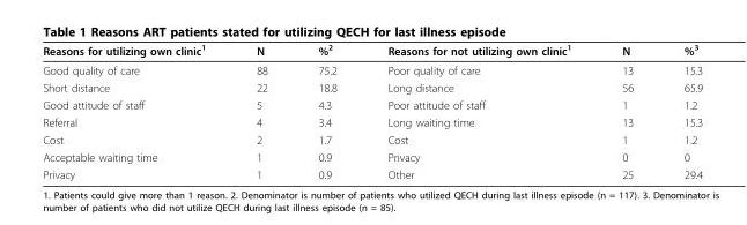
<table><thead><tr><td>Reasons for utilizing own clinic<sup>1</sup></td><td>N</td><td>%<sup>2</sup></td><td>Reasons for not utilizing own clinic<sup>1</sup></td><td>N</td><td>%<sup>3</sup></td></tr></thead><tbody><tr><td>Good quality of care</td><td>88</td><td>75.2</td><td>Poor quality of care</td><td>13</td><td>15.3</td></tr><tr><td>Short distance</td><td>22</td><td>18.8</td><td>Long distance</td><td>56</td><td>65.9</td></tr><tr><td>Good attitude of staff</td><td>5</td><td>4.3</td><td>Poor attitude of staff</td><td>1</td><td>1.2</td></tr><tr><td>Referral</td><td>4</td><td>3.4</td><td>Long waiting time</td><td>13</td><td>15.3</td></tr><tr><td>Cost</td><td>2</td><td>1.7</td><td>Cost</td><td>1</td><td>1.2</td></tr><tr><td>Acceptable waiting time</td><td>1</td><td>0.9</td><td>Privacy</td><td>0</td><td>0</td></tr><tr><td>Privacy</td><td>1</td><td>0.9</td><td>Other</td><td>25</td><td>29.4</td></tr></tbody></table>